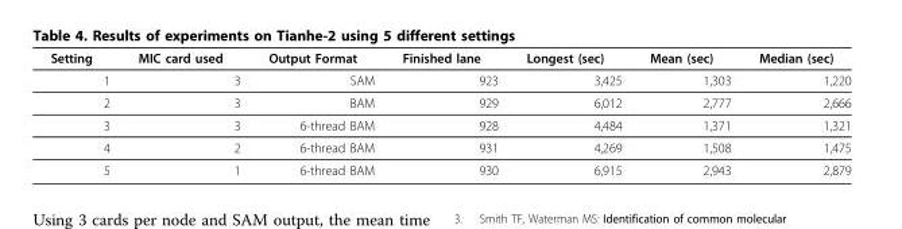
<table><thead><tr><td>Setting</td><td>MIC card used</td><td>Output Format</td><td>Finished lane</td><td>Longest (sec)</td><td>Mean (sec)</td><td>Median (sec)</td></tr></thead><tbody><tr><td>1</td><td>3</td><td>SAM</td><td>923</td><td>3,425</td><td>1,303</td><td>1,220</td></tr><tr><td>2</td><td>3</td><td>BAM</td><td>929</td><td>6,012</td><td>2,777</td><td>2,666</td></tr><tr><td>3</td><td>3</td><td>6-thread BAM</td><td>928</td><td>4,484</td><td>1,371</td><td>1,321</td></tr><tr><td>4</td><td>2</td><td>6-thread BAM</td><td>931</td><td>4,269</td><td>1,508</td><td>1,475</td></tr><tr><td>5</td><td>1</td><td>6-thread BAM</td><td>930</td><td>6,915</td><td>2,943</td><td>2,879</td></tr></tbody></table>